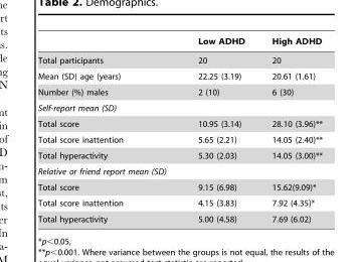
<table><thead><tr><td></td><td>Low ADHD</td><td>High ADHD</td></tr></thead><tbody><tr><td>Total participants</td><td>20</td><td>20</td></tr><tr><td>Mean (SD) age (years)</td><td>22.25 (3.19)</td><td>20.61 (1.61)</td></tr><tr><td>Number (%) males</td><td>2 (10)</td><td>6 (30)</td></tr><tr><td colspan="3">Self-report mean (SD)</td></tr><tr><td>Total score</td><td>10.95 (3.14)</td><td>28.10 (3.96)**</td></tr><tr><td>Total score inattention</td><td>5.65 (2.21)</td><td>14.05 (2.40)**</td></tr><tr><td>Total hyperactivity</td><td>5.30 (2.03)</td><td>14.05 (3.00)**</td></tr><tr><td colspan="3">Relative or friend report mean (SD)</td></tr><tr><td>Total score</td><td>9.15 (6.98)</td><td>15.62(9.09)*</td></tr><tr><td>Total score inattention</td><td>4.15 (3.83)</td><td>7.92 (4.35)*</td></tr><tr><td>Total hyperactivity</td><td>5.00 (4.58)</td><td>7.69 (6.02)</td></tr></tbody></table>